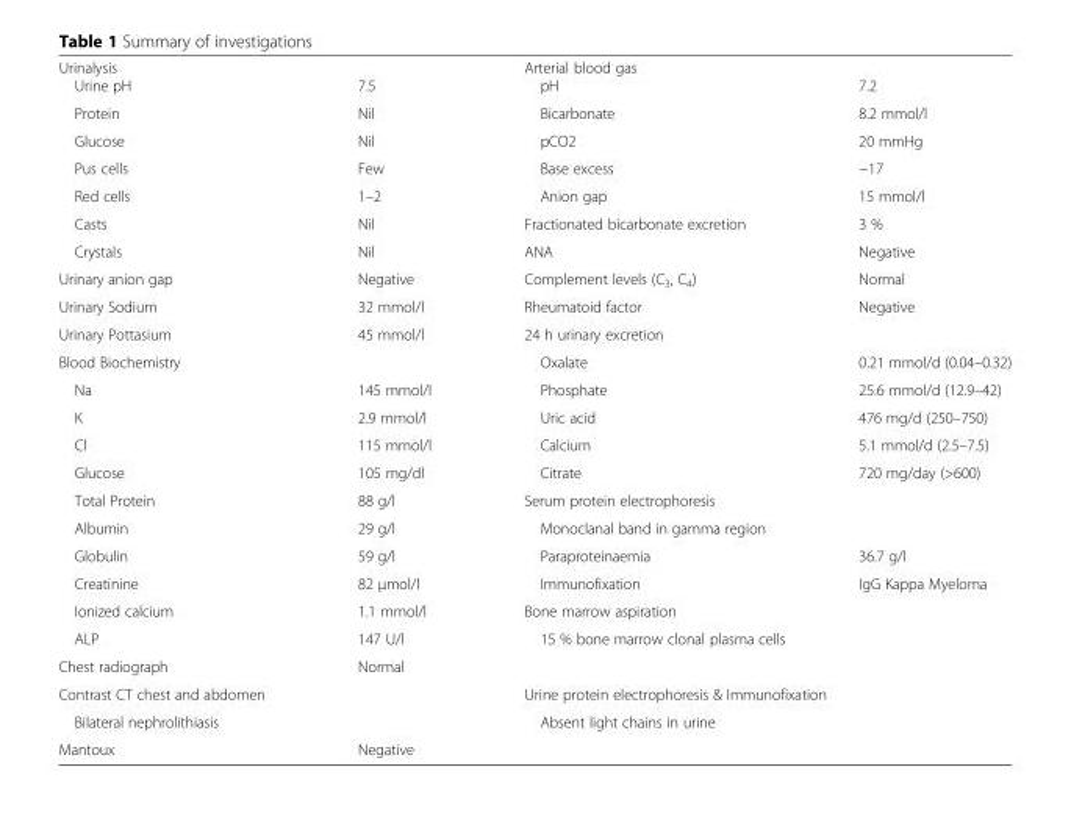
<table><thead><tr><td colspan="2">Urinalysis</td><td colspan="2">Arterial blood gas</td></tr><tr><td>Urine pH</td><td>7.5</td><td>pH</td><td>7.2</td></tr></thead><tbody><tr><td>Protein</td><td>Nil</td><td>Bicarbonate</td><td>8.2 mmol/l</td></tr><tr><td>Glucose</td><td>Nil</td><td>pCO2</td><td>20 mmHg</td></tr><tr><td>Pus cells</td><td>Few</td><td>Base excess</td><td>−17</td></tr><tr><td>Red cells</td><td>1–2</td><td>Anion gap</td><td>15 mmol/l</td></tr><tr><td>Casts</td><td>Nil</td><td>Fractionated bicarbonate excretion</td><td>3 %</td></tr><tr><td>Crystals</td><td>Nil</td><td>ANA</td><td>Negative</td></tr><tr><td>Urinary anion gap</td><td>Negative</td><td>Complement levels (C<sub>3</sub>, C<sub>4</sub>)</td><td>Normal</td></tr><tr><td>Urinary Sodium</td><td>32 mmol/l</td><td>Rheumatoid factor</td><td>Negative</td></tr><tr><td>Urinary Pottasium</td><td>45 mmol/l</td><td>24 h urinary excretion</td><td></td></tr><tr><td>Blood Biochemistry</td><td></td><td>Oxalate</td><td>0.21 mmol/d (0.04–0.32)</td></tr><tr><td>Na</td><td>145 mmol/l</td><td>Phosphate</td><td>25.6 mmol/d (12.9–42)</td></tr><tr><td>K</td><td>2.9 mmol/l</td><td>Uric acid</td><td>476 mg/d (250–750)</td></tr><tr><td>Cl</td><td>115 mmol/l</td><td>Calcium</td><td>5.1 mmol/d (2.5–7.5)</td></tr><tr><td>Glucose</td><td>105 mg/dl</td><td>Citrate</td><td>720 mg/day (&gt;600)</td></tr><tr><td>Total Protein</td><td>88 g/l</td><td>Serum protein electrophoresis</td><td></td></tr><tr><td>Albumin</td><td>29 g/l</td><td>Monoclanal band in gamma region</td><td></td></tr><tr><td>Globulin</td><td>59 g/l</td><td>Paraproteinaemia</td><td>36.7 g/l</td></tr><tr><td>Creatinine</td><td>82 μmol/l</td><td>Immunofixation</td><td>IgG Kappa Myeloma</td></tr><tr><td>Ionized calcium</td><td>1.1 mmol/l</td><td colspan="2">Bone marrow aspiration</td></tr><tr><td>ALP</td><td>147 U/l</td><td colspan="2">15 % bone marrow clonal plasma cells</td></tr><tr><td>Chest radiograph</td><td>Normal</td><td colspan="2"></td></tr><tr><td>Contrast CT chest and abdomen</td><td></td><td colspan="2">Urine protein electrophoresis &amp; Immunofixation</td></tr><tr><td>Bilateral nephrolithiasis</td><td></td><td colspan="2">Absent light chains in urine</td></tr><tr><td>Mantoux</td><td>Negative</td><td colspan="2"></td></tr></tbody></table>